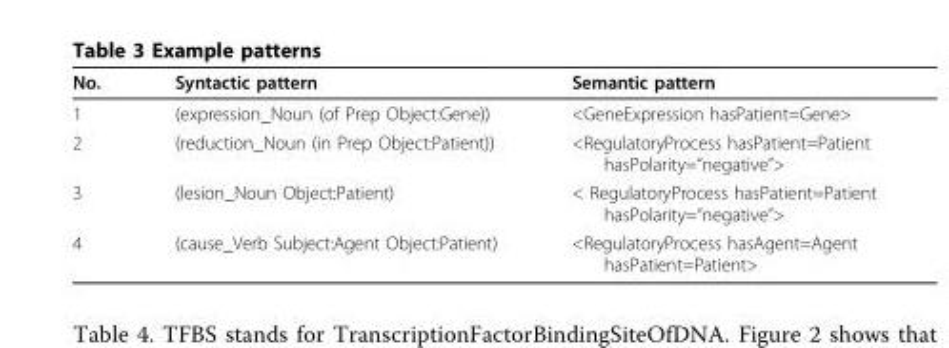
<table><thead><tr><td>No.</td><td>Syntactic pattern</td><td>Semantic pattern</td></tr></thead><tbody><tr><td>1</td><td>(expression_Noun (of Prep Object:Gene))</td><td>&lt;GeneExpression hasPatient=Gene&gt;</td></tr><tr><td>2</td><td>(reduction_Noun (in Prep Object:Patient))</td><td>&lt;RegulatoryProcess hasPatient=Patient hasPolarity=“negative”&gt;</td></tr><tr><td>3</td><td>(lesion_Noun Object:Patient)</td><td>&lt; RegulatoryProcess hasPatient=Patient hasPolarity=“negative”&gt;</td></tr><tr><td>4</td><td>(cause_Verb Subject:Agent Object:Patient)</td><td>&lt;RegulatoryProcess hasAgent=Agent hasPatient=Patient&gt;</td></tr></tbody></table>